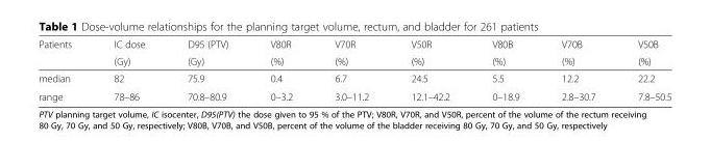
<table><thead><tr><td rowspan="2">Patients</td><td rowspan="2">IC dose (Gy)</td><td rowspan="2">D95 (PTV) (Gy)</td><td rowspan="2">V80R (%)</td><td rowspan="2">V70R (%)</td><td rowspan="2">V50R (%)</td><td rowspan="2">V80B (%)</td><td rowspan="2">V70B (%)</td><td rowspan="2">V50B (%)</td></tr><tr></tr></thead><tbody><tr><td>median</td><td>82</td><td>75.9</td><td>0.4</td><td>6.7</td><td>24.5</td><td>5.5</td><td>12.2</td><td>22.2</td></tr><tr><td>range</td><td>78–86</td><td>70.8–80.9</td><td>0–3.2</td><td>3.0–11.2</td><td>12.1–42.2</td><td>0–18.9</td><td>2.8–30.7</td><td>7.8–50.5</td></tr></tbody></table>